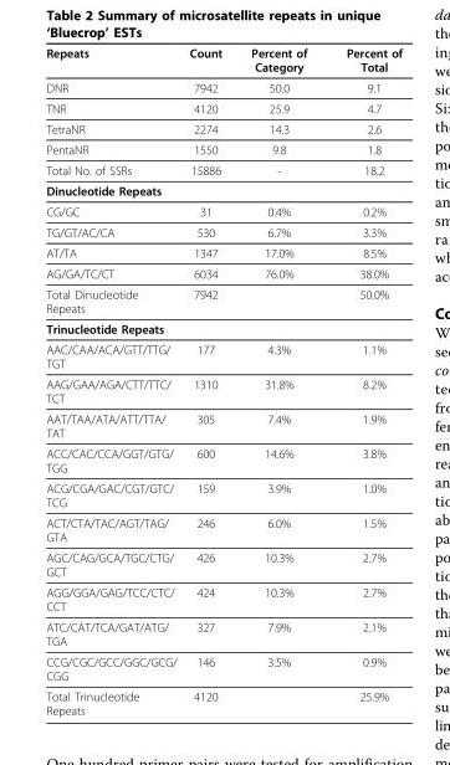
<table><thead><tr><td>Repeats</td><td>Count</td><td>Percent of Category</td><td>Percent of Total</td></tr></thead><tbody><tr><td>DNR</td><td>7942</td><td>50.0</td><td>9.1</td></tr><tr><td>TNR</td><td>4120</td><td>25.9</td><td>4.7</td></tr><tr><td>TetraNR</td><td>2274</td><td>14.3</td><td>2.6</td></tr><tr><td>PentaNR</td><td>1550</td><td>9.8</td><td>1.8</td></tr><tr><td>Total No. of SSRs</td><td>15886</td><td>-</td><td>18.2</td></tr><tr><td colspan="4">Dinucleotide Repeats</td></tr><tr><td>CG/GC</td><td>31</td><td>0.4%</td><td>0.2%</td></tr><tr><td>TG/GT/AC/CA</td><td>530</td><td>6.7%</td><td>3.3%</td></tr><tr><td>AT/TA</td><td>1347</td><td>17.0%</td><td>8.5%</td></tr><tr><td>AG/GA/TC/CT</td><td>6034</td><td>76.0%</td><td>38.0%</td></tr><tr><td>Total Dinucleotide Repeats</td><td>7942</td><td></td><td>50.0%</td></tr><tr><td colspan="4">Trinucleotide Repeats</td></tr><tr><td>AAC/CAA/ACA/GTT/TTG/ TGT</td><td>177</td><td>4.3%</td><td>1.1%</td></tr><tr><td>AAG/GAA/AGA/CTT/TTC/ TCT</td><td>1310</td><td>31.8%</td><td>8.2%</td></tr><tr><td>AAT/TAA/ATA/ATT/TTA/ TAT</td><td>305</td><td>7.4%</td><td>1.9%</td></tr><tr><td>ACC/CAC/CCA/GGT/GTG/ TGG</td><td>600</td><td>14.6%</td><td>3.8%</td></tr><tr><td>ACG/CGA/GAC/CGT/GTC/ TCG</td><td>159</td><td>3.9%</td><td>1.0%</td></tr><tr><td>ACT/CTA/TAC/AGT/TAG/ GTA</td><td>246</td><td>6.0%</td><td>1.5%</td></tr><tr><td>AGC/CAG/GCA/TGC/CTG/ GCT</td><td>426</td><td>10.3%</td><td>2.7%</td></tr><tr><td>AGG/GGA/GAG/TCC/CTC/ CCT</td><td>424</td><td>10.3%</td><td>2.7%</td></tr><tr><td>ATC/CAT/TCA/GAT/ATG/ TGA</td><td>327</td><td>7.9%</td><td>2.1%</td></tr><tr><td>CCG/CGC/GCC/GGC/GCG/ CGG</td><td>146</td><td>3.5%</td><td>0.9%</td></tr><tr><td>Total Trinucleotide Repeats</td><td>4120</td><td></td><td>25.9%</td></tr></tbody></table>